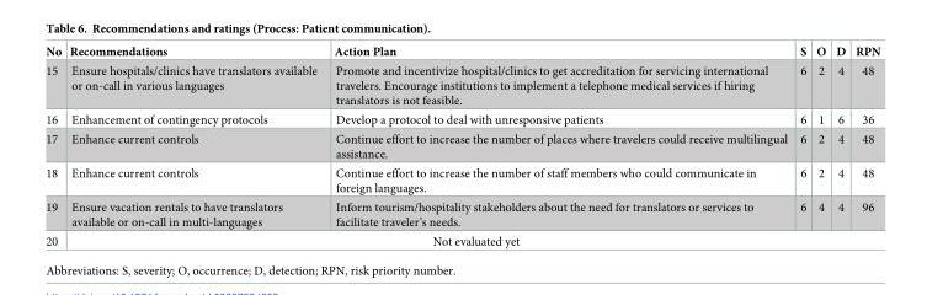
<table><thead><tr><td>No</td><td>Recommendations</td><td>Action Plan</td><td>S</td><td>O</td><td>D</td><td>RPN</td></tr></thead><tbody><tr><td>15</td><td>Ensure hospitals/clinics have translators available or on-call in various languages</td><td>Promote and incentivize hospital/clinics to get accreditation for servicing international travelers. Encourage institutions to implement a telephone medical services if hiring translators is not feasible.</td><td>6</td><td>2</td><td>4</td><td>48</td></tr><tr><td>16</td><td>Enhancement of contingency protocols</td><td>Develop a protocol to deal with unresponsive patients</td><td>6</td><td>1</td><td>6</td><td>36</td></tr><tr><td>17</td><td>Enhance current controls</td><td>Continue effort to increase the number of places where travelers could receive multilingual assistance.</td><td>6</td><td>2</td><td>4</td><td>48</td></tr><tr><td>18</td><td>Enhance current controls</td><td>Continue effort to increase the number of staff members who could communicate in foreign languages.</td><td>6</td><td>2</td><td>4</td><td>48</td></tr><tr><td>19</td><td>Ensure vacation rentals to have translators available or on-call in multi-languages</td><td>Inform tourism/hospitality stakeholders about the need for translators or services to facilitate traveler’s needs.</td><td>6</td><td>4</td><td>4</td><td>96</td></tr><tr><td>20</td><td colspan="6">Not evaluated yet</td></tr></tbody></table>